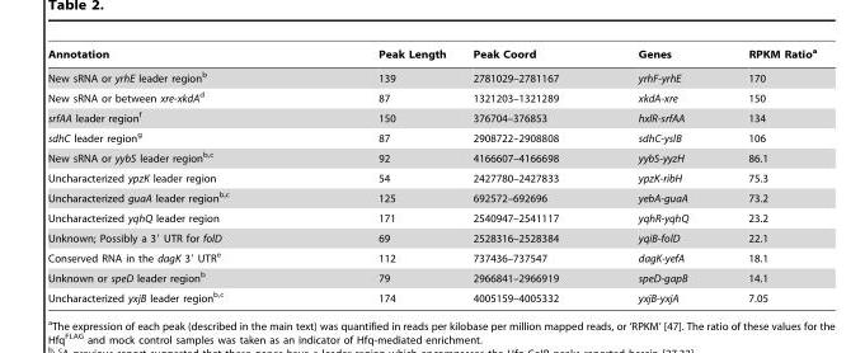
<table><thead><tr><td>Annotation</td><td>Peak Length</td><td>Peak Coord</td><td>Genes</td><td>RPKM Ratio<sup>a</sup></td></tr></thead><tbody><tr><td>New sRNA or yrhE leader region<sup>b</sup></td><td>139</td><td>2781029–2781167</td><td>yrhF-yrhE</td><td>170</td></tr><tr><td>New sRNA or between xre-xkdAd</td><td>87</td><td>1321203–1321289</td><td>xkdA-xre</td><td>150</td></tr><tr><td>srfAA leader region<sup>f</sup></td><td>150</td><td>376704–376853</td><td>hxlR-srfAA</td><td>134</td></tr><tr><td>sdhC leader region<sup>g</sup></td><td>87</td><td>2908722–2908808</td><td>sdhC-yslB</td><td>106</td></tr><tr><td>New sRNA or yybS leader region<sup>b,c</sup></td><td>92</td><td>4166607–4166698</td><td>yybS-yyzH</td><td>86.1</td></tr><tr><td>Uncharacterized ypzK leader region</td><td>54</td><td>2427780–2427833</td><td>ypzK-ribH</td><td>75.3</td></tr><tr><td>Uncharacterized guaA leader region<sup>b,c</sup></td><td>125</td><td>692572–692696</td><td>yebA-guaA</td><td>73.2</td></tr><tr><td>Uncharacterized yqhQ leader region</td><td>171</td><td>2540947–2541117</td><td>yqhR-yqhQ</td><td>23.2</td></tr><tr><td>Unknown; Possibly a 3′ UTR for folD</td><td>69</td><td>2528316–2528384</td><td>yqiB-folD</td><td>22.1</td></tr><tr><td>Conserved RNA in the dagK 3′ UTR<sup>e</sup></td><td>112</td><td>737436–737547</td><td>dagK-yefA</td><td>18.1</td></tr><tr><td>Unknown or speD leader region<sup>b</sup></td><td>79</td><td>2966841–2966919</td><td>speD-gapB</td><td>14.1</td></tr><tr><td>Uncharacterized yxjB leader region<sup>b,c</sup></td><td>174</td><td>4005159–4005332</td><td>yxjB-yxjA</td><td>7.05</td></tr></tbody></table>